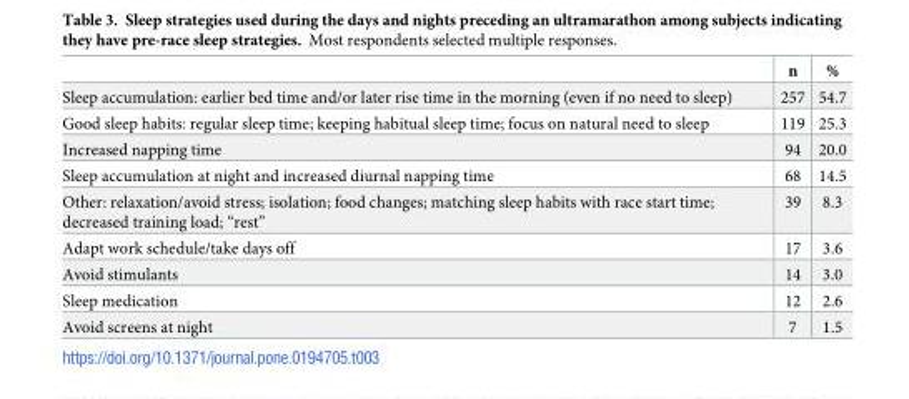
<table><thead><tr><td></td><td>n</td><td>%</td></tr></thead><tbody><tr><td>Sleep accumulation: earlier bed time and/or later rise time in the morning (even if no need to sleep)</td><td>257</td><td>54.7</td></tr><tr><td>Good sleep habits: regular sleep time; keeping habitual sleep time; focus on natural need to sleep</td><td>119</td><td>25.3</td></tr><tr><td>Increased napping time</td><td>94</td><td>20.0</td></tr><tr><td>Sleep accumulation at night and increased diurnal napping time</td><td>68</td><td>14.5</td></tr><tr><td>Other: relaxation/avoid stress; isolation; food changes; matching sleep habits with race start time; decreased training load; “rest”</td><td>39</td><td>8.3</td></tr><tr><td>Adapt work schedule/take days off</td><td>17</td><td>3.6</td></tr><tr><td>Avoid stimulants</td><td>14</td><td>3.0</td></tr><tr><td>Sleep medication</td><td>12</td><td>2.6</td></tr><tr><td>Avoid screens at night</td><td>7</td><td>1.5</td></tr></tbody></table>